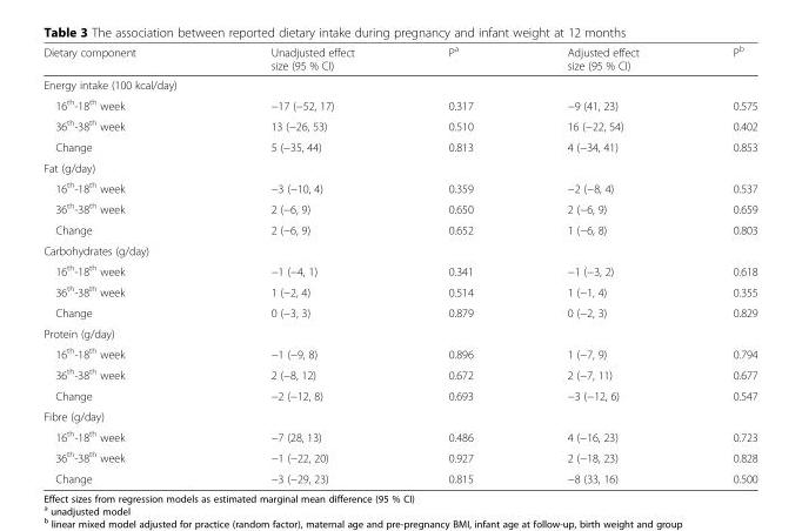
<table><thead><tr><td>Dietary component</td><td>Unadjusted effect size (95 % CI)</td><td>P<sup>a</sup></td><td>Adjusted effect size (95 % CI)</td><td>P<sup>b</sup></td></tr></thead><tbody><tr><td colspan="5">Energy intake (100 kcal/day)</td></tr><tr><td>16<sup>th</sup>-18<sup>th</sup> week</td><td>−17 (−52, 17)</td><td>0.317</td><td>−9 (41, 23)</td><td>0.575</td></tr><tr><td>36<sup>th</sup>-38<sup>th</sup> week</td><td>13 (−26, 53)</td><td>0.510</td><td>16 (−22, 54)</td><td>0.402</td></tr><tr><td>Change</td><td>5 (−35, 44)</td><td>0.813</td><td>4 (−34, 41)</td><td>0.853</td></tr><tr><td colspan="5">Fat (g/day)</td></tr><tr><td>16<sup>th</sup>-18<sup>th</sup> week</td><td>−3 (−10, 4)</td><td>0.359</td><td>−2 (−8, 4)</td><td>0.537</td></tr><tr><td>36<sup>th</sup>-38<sup>th</sup> week</td><td>2 (−6, 9)</td><td>0.650</td><td>2 (−6, 9)</td><td>0.659</td></tr><tr><td>Change</td><td>2 (−6, 9)</td><td>0.652</td><td>1 (−6, 8)</td><td>0.803</td></tr><tr><td colspan="5">Carbohydrates (g/day)</td></tr><tr><td>16<sup>th</sup>-18<sup>th</sup> week</td><td>−1 (−4, 1)</td><td>0.341</td><td>−1 (−3, 2)</td><td>0.618</td></tr><tr><td>36<sup>th</sup>-38<sup>th</sup> week</td><td>1 (−2, 4)</td><td>0.514</td><td>1 (−1, 4)</td><td>0.355</td></tr><tr><td>Change</td><td>0 (−3, 3)</td><td>0.879</td><td>0 (−2, 3)</td><td>0.829</td></tr><tr><td colspan="5">Protein (g/day)</td></tr><tr><td>16<sup>th</sup>-18<sup>th</sup> week</td><td>−1 (−9, 8)</td><td>0.896</td><td>1 (−7, 9)</td><td>0.794</td></tr><tr><td>36<sup>th</sup>-38<sup>th</sup> week</td><td>2 (−8, 12)</td><td>0.672</td><td>2 (−7, 11)</td><td>0.677</td></tr><tr><td>Change</td><td>−2 (−12, 8)</td><td>0.693</td><td>−3 (−12, 6)</td><td>0.547</td></tr><tr><td colspan="5">Fibre (g/day)</td></tr><tr><td>16<sup>th</sup>-18<sup>th</sup> week</td><td>−7 (28, 13)</td><td>0.486</td><td>4 (−16, 23)</td><td>0.723</td></tr><tr><td>36<sup>th</sup>-38<sup>th</sup> week</td><td>−1 (−22, 20)</td><td>0.927</td><td>2 (−18, 23)</td><td>0.828</td></tr><tr><td>Change</td><td>−3 (−29, 23)</td><td>0.815</td><td>−8 (33, 16)</td><td>0.500</td></tr></tbody></table>